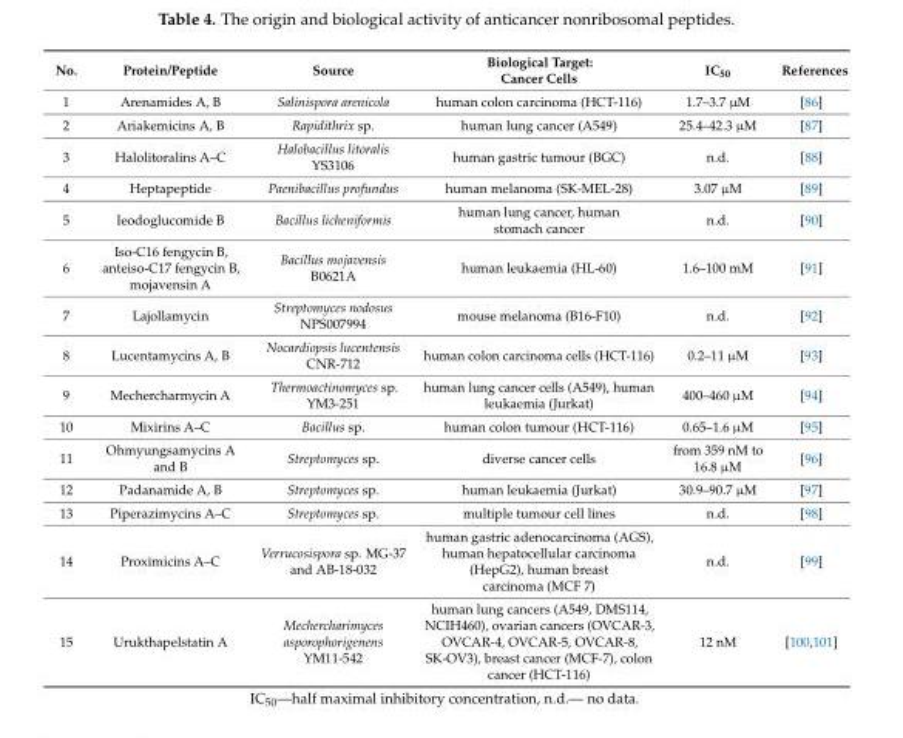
<table><thead><tr><td>No.</td><td>Protein/Peptide</td><td>Source</td><td>Biological Target: Cancer Cells</td><td>IC<sub>50</sub></td><td>References</td></tr></thead><tbody><tr><td>1</td><td>Arenamides A, B</td><td>Salinispora arenicola</td><td>human colon carcinoma (HCT-116)</td><td>1.7–3.7 µM</td><td>[86]</td></tr><tr><td>2</td><td>Ariakemicins A, B</td><td>Rapidithrix sp.</td><td>human lung cancer (A549)</td><td>25.4–42.3 µM</td><td>[87]</td></tr><tr><td>3</td><td>Halolitoralins A–C</td><td>Halobacillus litoralis YS3106</td><td>human gastric tumour (BGC)</td><td>n.d.</td><td>[88]</td></tr><tr><td>4</td><td>Heptapeptide</td><td>Paenibacillus profundus</td><td>human melanoma (SK-MEL-28)</td><td>3.07 µM</td><td>[89]</td></tr><tr><td>5</td><td>Ieodoglucomide B</td><td>Bacillus licheniformis</td><td>human lung cancer, human stomach cancer</td><td>n.d.</td><td>[90]</td></tr><tr><td>6</td><td>Iso-C16 fengycin B, anteiso-C17 fengycin B, mojavensin A</td><td>Bacillus mojavensis B0621A</td><td>human leukaemia (HL-60)</td><td>1.6–100 mM</td><td>[91]</td></tr><tr><td>7</td><td>Lajollamycin</td><td>Streptomyces nodosus NPS007994</td><td>mouse melanoma (B16-F10)</td><td>n.d.</td><td>[92]</td></tr><tr><td>8</td><td>Lucentamycins A, B</td><td>Nocardiopsis lucentensis CNR-712</td><td>human colon carcinoma cells (HCT-116)</td><td>0.2–11 µM</td><td>[93]</td></tr><tr><td>9</td><td>Mechercharmycin A</td><td>Thermoactinomyces sp. YM3-251</td><td>human lung cancer cells (A549), human leukaemia (Jurkat)</td><td>400–460 µM</td><td>[94]</td></tr><tr><td>10</td><td>Mixirins A–C</td><td>Bacillus sp.</td><td>human colon tumour (HCT-116)</td><td>0.65–1.6 µM</td><td>[95]</td></tr><tr><td>11</td><td>Ohmyungsamycins A and B</td><td>Streptomyces sp.</td><td>diverse cancer cells</td><td>from 359 nM to 16.8 µM</td><td>[96]</td></tr><tr><td>12</td><td>Padanamide A, B</td><td>Streptomyces sp.</td><td>human leukaemia (Jurkat)</td><td>30.9–90.7 µM</td><td>[97]</td></tr><tr><td>13</td><td>Piperazimycins A–C</td><td>Streptomyces sp.</td><td>multiple tumour cell lines</td><td>n.d.</td><td>[98]</td></tr><tr><td>14</td><td>Proximicins A–C</td><td>Verrucosispora sp. MG-37 and AB-18-032</td><td>human gastric adenocarcinoma (AGS), human hepatocellular carcinoma (HepG2), human breast carcinoma (MCF 7)</td><td>n.d.</td><td>[99]</td></tr><tr><td>15</td><td>Urukthapelstatin A</td><td>Mechercharimyces asporophorigenens YM11-542</td><td>human lung cancers (A549, DMS114, NCIH460), ovarian cancers (OVCAR-3, OVCAR-4, OVCAR-5, OVCAR-8, SK-OV3), breast cancer (MCF-7), colon cancer (HCT-116)</td><td>12 nM</td><td>[100,101]</td></tr></tbody></table>